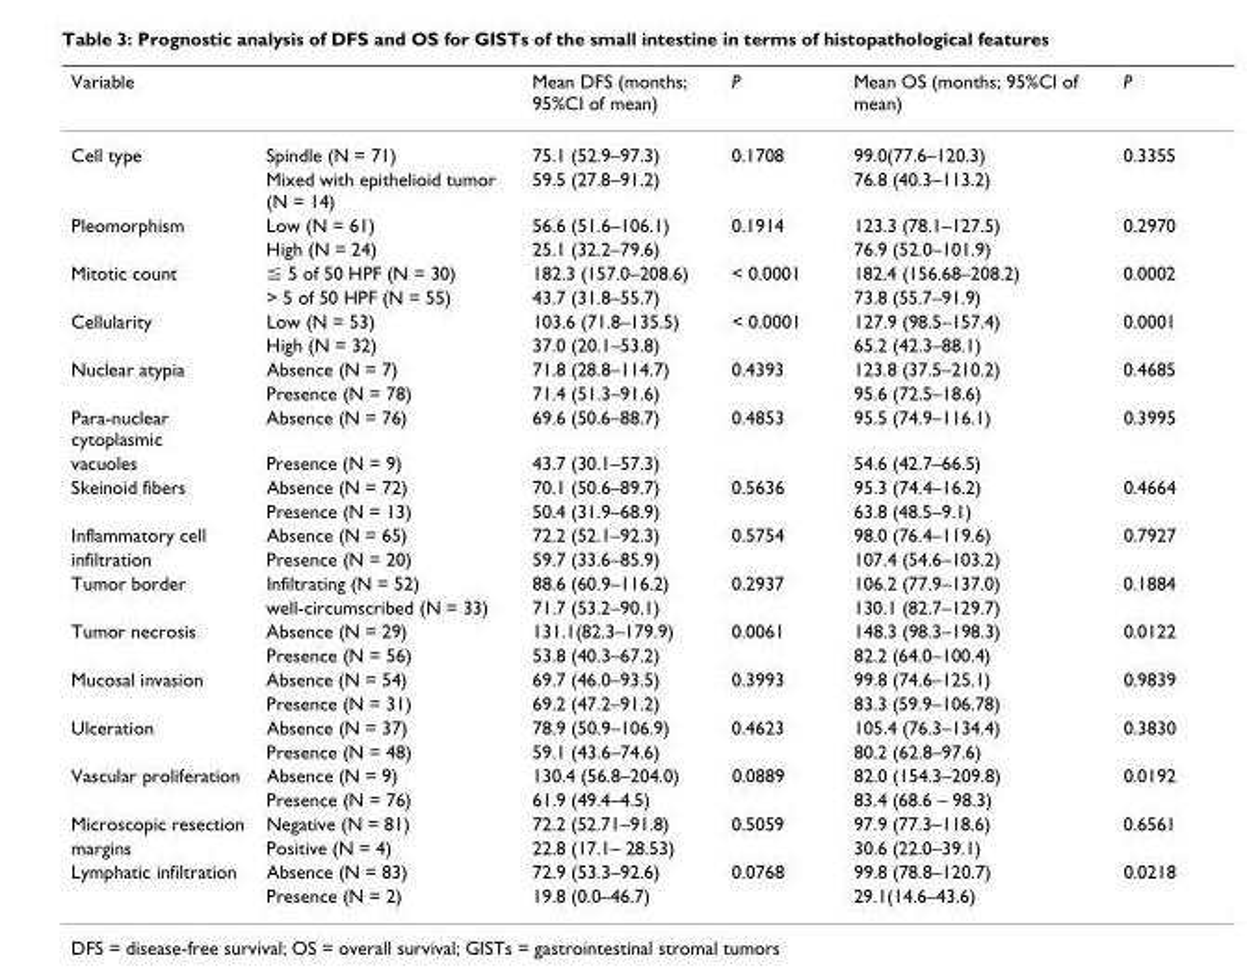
<table><thead><tr><td>Variable</td><td></td><td>Mean DFS (months; 95%CI of mean)</td><td>P</td><td>Mean OS (months; 95%CI of mean)</td><td>P</td></tr></thead><tbody><tr><td rowspan="2">Cell type</td><td>Spindle (N = 71)</td><td>75.1 (52.9–97.3)</td><td>0.1708</td><td>99.0(77.6–120.3)</td><td>0.3355</td></tr><tr><td>Mixed with epithelioid tumor (N = 14)</td><td>59.5 (27.8–91.2)</td><td></td><td>76.8 (40.3–113.2)</td><td></td></tr><tr><td rowspan="2">Pleomorphism</td><td>Low (N = 61)</td><td>56.6 (51.6–106.1)</td><td>0.1914</td><td>123.3 (78.1–127.5)</td><td>0.2970</td></tr><tr><td>High (N = 24)</td><td>25.1 (32.2–79.6)</td><td></td><td>76.9 (52.0–101.9)</td><td></td></tr><tr><td rowspan="2">Mitotic count</td><td>≦ 5 of 50 HPF (N = 30)</td><td>182.3 (157.0–208.6)</td><td>&lt; 0.0001</td><td>182.4 (156.68–208.2)</td><td>0.0002</td></tr><tr><td>&gt; 5 of 50 HPF (N = 55)</td><td>43.7 (31.8–55.7)</td><td></td><td>73.8 (55.7–91.9)</td><td></td></tr><tr><td rowspan="2">Cellularity</td><td>Low (N = 53)</td><td>103.6 (71.8–135.5)</td><td>&lt; 0.0001</td><td>127.9 (98.5–157.4)</td><td>0.0001</td></tr><tr><td>High (N = 32)</td><td>37.0 (20.1–53.8)</td><td></td><td>65.2 (42.3–88.1)</td><td></td></tr><tr><td rowspan="2">Nuclear atypia</td><td>Absence (N = 7)</td><td>71.8 (28.8–114.7)</td><td>0.4393</td><td>123.8 (37.5–210.2)</td><td>0.4685</td></tr><tr><td>Presence (N = 78)</td><td>71.4 (51.3–91.6)</td><td></td><td>95.6 (72.5–18.6)</td><td></td></tr><tr><td>Para-nuclear cytoplasmic</td><td>Absence (N = 76)</td><td>69.6 (50.6–88.7)</td><td>0.4853</td><td>95.5 (74.9–116.1)</td><td>0.3995</td></tr><tr><td>vacuoles</td><td>Presence (N = 9)</td><td>43.7 (30.1–57.3)</td><td></td><td>54.6 (42.7–66.5)</td><td></td></tr><tr><td rowspan="2">Skeinoid fibers</td><td>Absence (N = 72)</td><td>70.1 (50.6–89.7)</td><td>0.5636</td><td>95.3 (74.4–16.2)</td><td>0.4664</td></tr><tr><td>Presence (N = 13)</td><td>50.4 (31.9–68.9)</td><td></td><td>63.8 (48.5–9.1)</td><td></td></tr><tr><td>Inflammatory cell</td><td>Absence (N = 65)</td><td>72.2 (52.1–92.3)</td><td>0.5754</td><td>98.0 (76.4–119.6)</td><td>0.7927</td></tr><tr><td>infiltration</td><td>Presence (N = 20)</td><td>59.7 (33.6–85.9)</td><td></td><td>107.4 (54.6–103.2)</td><td></td></tr><tr><td rowspan="2">Tumor border</td><td>Infiltrating (N = 52)</td><td>88.6 (60.9–116.2)</td><td>0.2937</td><td>106.2 (77.9–137.0)</td><td>0.1884</td></tr><tr><td>well-circumscribed (N = 33)</td><td>71.7 (53.2–90.1)</td><td></td><td>130.1 (82.7–129.7)</td><td></td></tr><tr><td rowspan="2">Tumor necrosis</td><td>Absence (N = 29)</td><td>131.1(82.3–179.9)</td><td>0.0061</td><td>148.3 (98.3–198.3)</td><td>0.0122</td></tr><tr><td>Presence (N = 56)</td><td>53.8 (40.3–67.2)</td><td></td><td>82.2 (64.0–100.4)</td><td></td></tr><tr><td rowspan="2">Mucosal invasion</td><td>Absence (N = 54)</td><td>69.7 (46.0–93.5)</td><td>0.3993</td><td>99.8 (74.6–125.1)</td><td>0.9839</td></tr><tr><td>Presence (N = 31)</td><td>69.2 (47.2–91.2)</td><td></td><td>83.3 (59.9–106.78)</td><td></td></tr><tr><td rowspan="2">Ulceration</td><td>Absence (N = 37)</td><td>78.9 (50.9–106.9)</td><td>0.4623</td><td>105.4 (76.3–134.4)</td><td>0.3830</td></tr><tr><td>Presence (N = 48)</td><td>59.1 (43.6–74.6)</td><td></td><td>80.2 (62.8–97.6)</td><td></td></tr><tr><td rowspan="2">Vascular proliferation</td><td>Absence (N = 9)</td><td>130.4 (56.8–204.0)</td><td>0.0889</td><td>82.0 (154.3–209.8)</td><td>0.0192</td></tr><tr><td>Presence (N = 76)</td><td>61.9 (49.4–4.5)</td><td></td><td>83.4 (68.6 – 98.3)</td><td></td></tr><tr><td>Microscopic resection</td><td>Negative (N = 81)</td><td>72.2 (52.71–91.8)</td><td>0.5059</td><td>97.9 (77.3–118.6)</td><td>0.6561</td></tr><tr><td>margins</td><td>Positive (N = 4)</td><td>22.8 (17.1– 28.53)</td><td></td><td>30.6 (22.0–39.1)</td><td></td></tr><tr><td rowspan="2">Lymphatic infiltration</td><td>Absence (N = 83)</td><td>72.9 (53.3–92.6)</td><td>0.0768</td><td>99.8 (78.8–120.7)</td><td>0.0218</td></tr><tr><td>Presence (N = 2)</td><td>19.8 (0.0–46.7)</td><td></td><td>29.1(14.6–43.6)</td><td></td></tr></tbody></table>